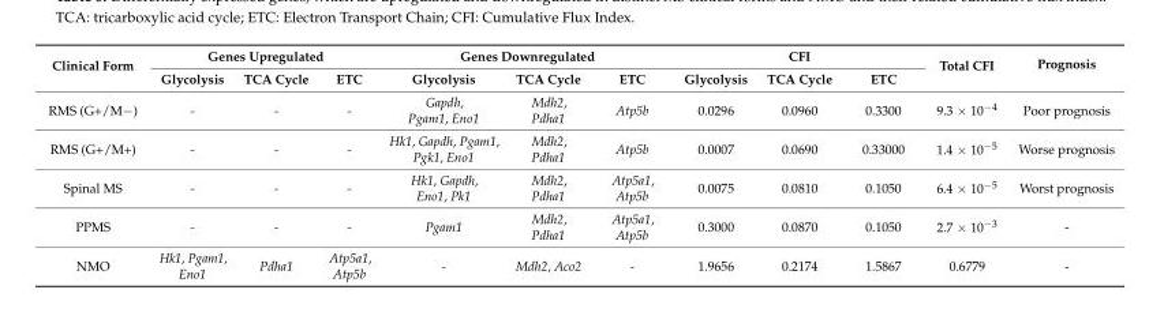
<table><thead><tr><td rowspan="2">Clinical Form</td><td colspan="3">Genes Upregulated</td><td colspan="3">Genes Downregulated</td><td colspan="3">CFI</td><td rowspan="2">Total CFI</td><td rowspan="2">Prognosis</td></tr><tr><td>Glycolysis</td><td>TCA Cycle</td><td>ETC</td><td>Glycolysis</td><td>TCA Cycle</td><td>ETC</td><td>Glycolysis</td><td>TCA Cycle</td><td>ETC</td></tr></thead><tbody><tr><td>RMS (G+/M−)</td><td>-</td><td>-</td><td>-</td><td>Gapdh, Pgam1, Eno1</td><td>Mdh2, Pdha1</td><td>Atp5b</td><td>0.0296</td><td>0.0960</td><td>0.3300</td><td>9.3 × 10<sup>−4</sup></td><td>Poor prognosis</td></tr><tr><td>RMS (G+/M+)</td><td>-</td><td>-</td><td>-</td><td>Hk1, Gapdh, Pgam1, Pgk1, Eno1</td><td>Mdh2, Pdha1</td><td>Atp5b</td><td>0.0007</td><td>0.0690</td><td>0.33000</td><td>1.4 × 10<sup>−5</sup></td><td>Worse prognosis</td></tr><tr><td>Spinal MS</td><td>-</td><td>-</td><td>-</td><td>Hk1, Gapdh, Eno1, Pk1</td><td>Mdh2, Pdha1</td><td>Atp5a1, Atp5b</td><td>0.0075</td><td>0.0810</td><td>0.1050</td><td>6.4 × 10<sup>−5</sup></td><td>Worst prognosis</td></tr><tr><td>PPMS</td><td>-</td><td>-</td><td>-</td><td>Pgam1</td><td>Mdh2, Pdha1</td><td>Atp5a1, Atp5b</td><td>0.3000</td><td>0.0870</td><td>0.1050</td><td>2.7 × 10<sup>−3</sup></td><td>-</td></tr><tr><td>NMO</td><td>Hk1, Pgam1, Eno1</td><td>Pdha1</td><td>Atp5a1, Atp5b</td><td>-</td><td>Mdh2, Aco2</td><td>-</td><td>1.9656</td><td>0.2174</td><td>1.5867</td><td>0.6779</td><td>-</td></tr></tbody></table>